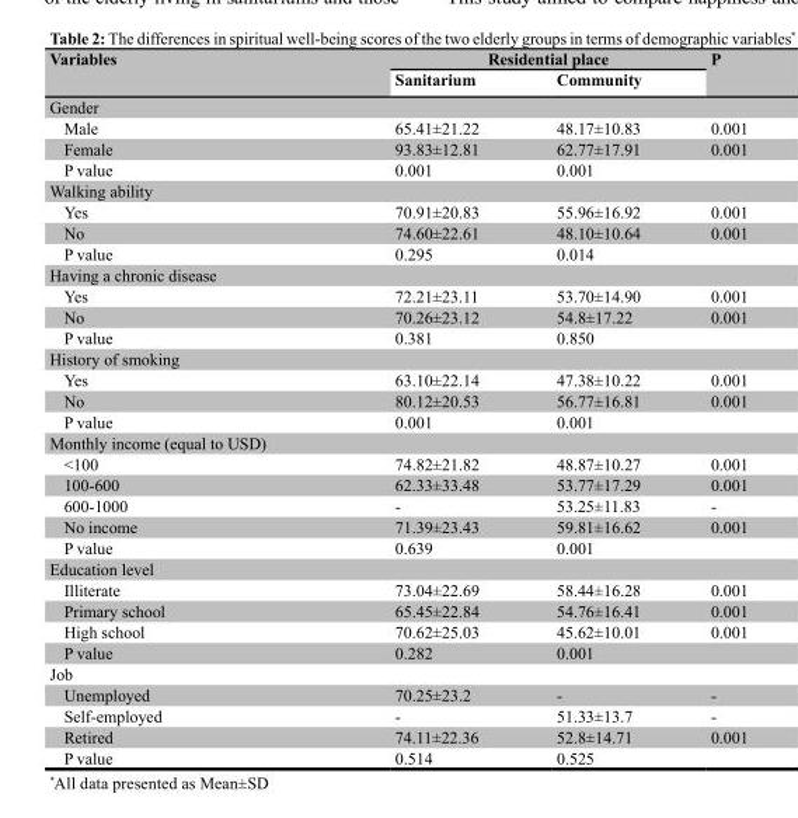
<table><thead><tr><td rowspan="2">Variables</td><td colspan="2">Residential place</td><td rowspan="2">P</td></tr><tr><td>Sanitarium</td><td>Community</td></tr></thead><tbody><tr><td colspan="4">Gender</td></tr><tr><td>Male</td><td>65.41±21.22</td><td>48.17±10.83</td><td>0.001</td></tr><tr><td>Female</td><td>93.83±12.81</td><td>62.77±17.91</td><td>0.001</td></tr><tr><td>P value</td><td>0.001</td><td>0.001</td><td></td></tr><tr><td colspan="4">Walking ability</td></tr><tr><td>Yes</td><td>70.91±20.83</td><td>55.96±16.92</td><td>0.001</td></tr><tr><td>No</td><td>74.60±22.61</td><td>48.10±10.64</td><td>0.001</td></tr><tr><td>P value</td><td>0.295</td><td>0.014</td><td></td></tr><tr><td colspan="4">Having a chronic disease</td></tr><tr><td>Yes</td><td>72.21±23.11</td><td>53.70±14.90</td><td>0.001</td></tr><tr><td>No</td><td>70.26±23.12</td><td>54.8±17.22</td><td>0.001</td></tr><tr><td>P value</td><td>0.381</td><td>0.850</td><td></td></tr><tr><td colspan="4">History of smoking</td></tr><tr><td>Yes</td><td>63.10±22.14</td><td>47.38±10.22</td><td>0.001</td></tr><tr><td>No</td><td>80.12±20.53</td><td>56.77±16.81</td><td>0.001</td></tr><tr><td>P value</td><td>0.001</td><td>0.001</td><td></td></tr><tr><td colspan="4">Monthly income (equal to USD)</td></tr><tr><td>&lt;100</td><td>74.82±21.82</td><td>48.87±10.27</td><td>0.001</td></tr><tr><td>100-600</td><td>62.33±33.48</td><td>53.77±17.29</td><td>0.001</td></tr><tr><td>600-1000</td><td>-</td><td>53.25±11.83</td><td>-</td></tr><tr><td>No income</td><td>71.39±23.43</td><td>59.81±16.62</td><td>0.001</td></tr><tr><td>P value</td><td>0.639</td><td>0.001</td><td></td></tr><tr><td colspan="4">Education level</td></tr><tr><td>Illiterate</td><td>73.04±22.69</td><td>58.44±16.28</td><td>0.001</td></tr><tr><td>Primary school</td><td>65.45±22.84</td><td>54.76±16.41</td><td>0.001</td></tr><tr><td>High school</td><td>70.62±25.03</td><td>45.62±10.01</td><td>0.001</td></tr><tr><td>P value</td><td>0.282</td><td>0.001</td><td></td></tr><tr><td colspan="4">Job</td></tr><tr><td>Unemployed</td><td>70.25±23.2</td><td>-</td><td>-</td></tr><tr><td>Self-employed</td><td>-</td><td>51.33±13.7</td><td>-</td></tr><tr><td>Retired</td><td>74.11±22.36</td><td>52.8±14.71</td><td>0.001</td></tr><tr><td>P value</td><td>0.514</td><td>0.525</td><td></td></tr></tbody></table>